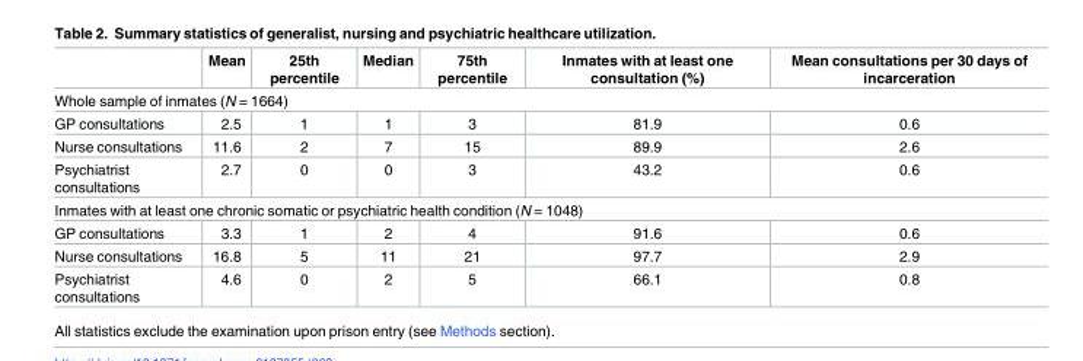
<table><thead><tr><td></td><td>Mean</td><td>25th percentile</td><td>Median</td><td>75th percentile</td><td>Inmates with at least one consultation (%)</td><td>Mean consultations per 30 days of incarceration</td></tr></thead><tbody><tr><td colspan="7">Whole sample of inmates (N = 1664)</td></tr><tr><td>GP consultations</td><td>2.5</td><td>1</td><td>1</td><td>3</td><td>81.9</td><td>0.6</td></tr><tr><td>Nurse consultations</td><td>11.6</td><td>2</td><td>7</td><td>15</td><td>89.9</td><td>2.6</td></tr><tr><td>Psychiatrist consultations</td><td>2.7</td><td>0</td><td>0</td><td>3</td><td>43.2</td><td>0.6</td></tr><tr><td colspan="7">Inmates with at least one chronic somatic or psychiatric health condition (N = 1048)</td></tr><tr><td>GP consultations</td><td>3.3</td><td>1</td><td>2</td><td>4</td><td>91.6</td><td>0.6</td></tr><tr><td>Nurse consultations</td><td>16.8</td><td>5</td><td>11</td><td>21</td><td>97.7</td><td>2.9</td></tr><tr><td>Psychiatrist consultations</td><td>4.6</td><td>0</td><td>2</td><td>5</td><td>66.1</td><td>0.8</td></tr></tbody></table>